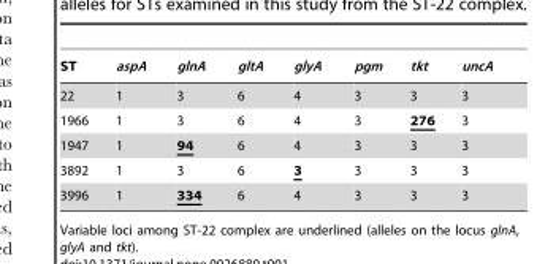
<table><thead><tr><td>ST</td><td>aspA</td><td>glnA</td><td>gltA</td><td>glyA</td><td>pgm</td><td>tkt</td><td>uncA</td></tr></thead><tbody><tr><td>22</td><td>1</td><td>3</td><td>6</td><td>4</td><td>3</td><td>3</td><td>3</td></tr><tr><td>1966</td><td>1</td><td>3</td><td>6</td><td>4</td><td>3</td><td>276</td><td>3</td></tr><tr><td>1947</td><td>1</td><td>94</td><td>6</td><td>4</td><td>3</td><td>3</td><td>3</td></tr><tr><td>3892</td><td>1</td><td>3</td><td>6</td><td>3</td><td>3</td><td>3</td><td>3</td></tr><tr><td>3996</td><td>1</td><td>334</td><td>6</td><td>4</td><td>3</td><td>3</td><td>3</td></tr></tbody></table>